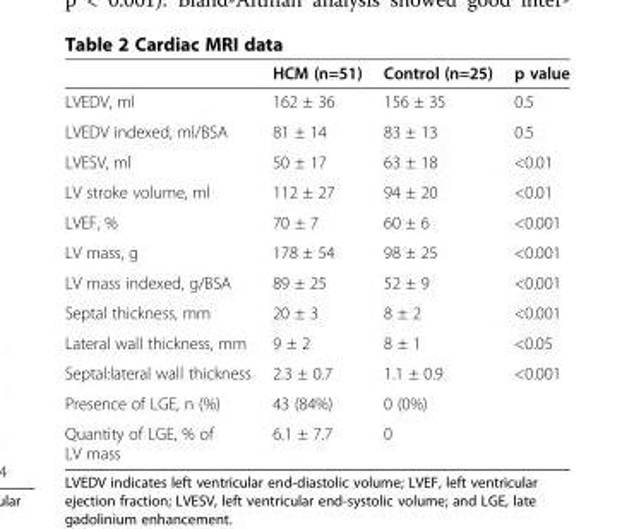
<table><thead><tr><td></td><td>HCM (n=51)</td><td>Control (n=25)</td><td>p value</td></tr></thead><tbody><tr><td>LVEDV, ml</td><td>162 ± 36</td><td>156 ± 35</td><td>0.5</td></tr><tr><td>LVEDV indexed, ml/BSA</td><td>81 ± 14</td><td>83 ± 13</td><td>0.5</td></tr><tr><td>LVESV, ml</td><td>50 ± 17</td><td>63 ± 18</td><td>&lt;0.01</td></tr><tr><td>LV stroke volume, ml</td><td>112 ± 27</td><td>94 ± 20</td><td>&lt;0.01</td></tr><tr><td>LVEF, %</td><td>70 ± 7</td><td>60 ± 6</td><td>&lt;0.001</td></tr><tr><td>LV mass, g</td><td>178 ± 54</td><td>98 ± 25</td><td>&lt;0.001</td></tr><tr><td>LV mass indexed, g/BSA</td><td>89 ± 25</td><td>52 ± 9</td><td>&lt;0.001</td></tr><tr><td>Septal thickness, mm</td><td>20 ± 3</td><td>8 ± 2</td><td>&lt;0.001</td></tr><tr><td>Lateral wall thickness, mm</td><td>9 ± 2</td><td>8 ± 1</td><td>&lt;0.05</td></tr><tr><td>Septal:lateral wall thickness</td><td>2.3 ± 0.7</td><td>1.1 ± 0.9</td><td>&lt;0.001</td></tr><tr><td>Presence of LGE, n (%)</td><td>43 (84%)</td><td>0 (0%)</td><td></td></tr><tr><td>Quantity of LGE, % of LV mass</td><td>6.1 ± 7.7</td><td>0</td><td></td></tr></tbody></table>